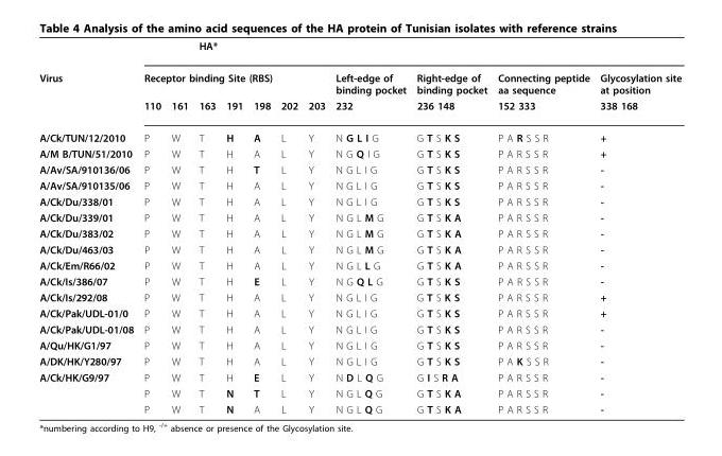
<table><thead><tr><td rowspan="3">Virus</td><td></td><td></td><td colspan="6">HA*</td><td rowspan="3">Right-edge of binding pocket 236 148</td><td rowspan="3">Connecting peptide aa sequence 152 333</td><td rowspan="3">Glycosylation site at position 338 168</td></tr><tr><td colspan="7">Receptor binding Site (RBS)</td><td rowspan="2">Left-edge of binding pocket 232</td></tr><tr><td>110</td><td>161</td><td>163</td><td>191</td><td>198</td><td>202</td><td>203</td></tr></thead><tbody><tr><td>A/Ck/TUN/12/2010</td><td>P</td><td>W</td><td>T</td><td>H</td><td>A</td><td>L</td><td>Y</td><td>N G L I G</td><td>G T S K S</td><td>P A R S S R</td><td>+</td></tr><tr><td>A/M B/TUN/51/2010</td><td>P</td><td>W</td><td>T</td><td>H</td><td>A</td><td>L</td><td>Y</td><td>N G Q I G</td><td>G T S K S</td><td>P A R S S R</td><td>+</td></tr><tr><td>A/Av/SA/910136/06</td><td>P</td><td>W</td><td>T</td><td>H</td><td>T</td><td>L</td><td>Y</td><td>N G L I G</td><td>G T S K S</td><td>P A R S S R</td><td>-</td></tr><tr><td>A/Av/SA/910135/06</td><td>P</td><td>W</td><td>T</td><td>H</td><td>A</td><td>L</td><td>Y</td><td>N G L I G</td><td>G T S K S</td><td>P A R S S R</td><td>-</td></tr><tr><td>A/Ck/Du/338/01</td><td>P</td><td>W</td><td>T</td><td>H</td><td>A</td><td>L</td><td>Y</td><td>N G L I G</td><td>G T S K S</td><td>P A R S S R</td><td>-</td></tr><tr><td>A/Ck/Du/339/01</td><td>P</td><td>W</td><td>T</td><td>H</td><td>A</td><td>L</td><td>Y</td><td>N G L M G</td><td>G T S K A</td><td>P A R S S R</td><td>-</td></tr><tr><td>A/Ck/Du/383/02</td><td>P</td><td>W</td><td>T</td><td>H</td><td>A</td><td>L</td><td>Y</td><td>N G L M G</td><td>G T S K A</td><td>P A R S S R</td><td>-</td></tr><tr><td>A/Ck/Du/463/03</td><td>P</td><td>W</td><td>T</td><td>H</td><td>A</td><td>L</td><td>Y</td><td>N G L M G</td><td>G T S K A</td><td>P A R S S R</td><td>-</td></tr><tr><td>A/Ck/Em/R66/02</td><td>P</td><td>W</td><td>T</td><td>H</td><td>A</td><td>L</td><td>Y</td><td>N G L L G</td><td>G T S K A</td><td>P A R S S R</td><td>-</td></tr><tr><td>A/Ck/Is/386/07</td><td>P</td><td>W</td><td>T</td><td>H</td><td>E</td><td>L</td><td>Y</td><td>N G Q L G</td><td>G T S K S</td><td>P A R S S R</td><td>-</td></tr><tr><td>A/Ck/Is/292/08</td><td>P</td><td>W</td><td>T</td><td>H</td><td>A</td><td>L</td><td>Y</td><td>N G L I G</td><td>G T S K S</td><td>P A R S S R</td><td>+</td></tr><tr><td>A/Ck/Pak/UDL-01/0</td><td>P</td><td>W</td><td>T</td><td>H</td><td>A</td><td>L</td><td>Y</td><td>N G L I G</td><td>G T S K S</td><td>P A R S S R</td><td>+</td></tr><tr><td>A/Ck/Pak/UDL-01/08</td><td>P</td><td>W</td><td>T</td><td>H</td><td>A</td><td>L</td><td>Y</td><td>N G L I G</td><td>G T S K S</td><td>P A R S S R</td><td>-</td></tr><tr><td>A/Qu/HK/G1/97</td><td>P</td><td>W</td><td>T</td><td>H</td><td>A</td><td>L</td><td>Y</td><td>N G L I G</td><td>G T S K S</td><td>P A R S S R</td><td>-</td></tr><tr><td>A/DK/HK/Y280/97</td><td>P</td><td>W</td><td>T</td><td>H</td><td>A</td><td>L</td><td>Y</td><td>N G L I G</td><td>G T S K S</td><td>P A K S S R</td><td>-</td></tr><tr><td rowspan="3">A/Ck/HK/G9/97</td><td>P</td><td>W</td><td>T</td><td>H</td><td>E</td><td>L</td><td>Y</td><td>N D L Q G</td><td>G I S R A</td><td>P A R S S R</td><td>-</td></tr><tr><td>P</td><td>W</td><td>T</td><td>N</td><td>T</td><td>L</td><td>Y</td><td>N G L Q G</td><td>G T S K A</td><td>P A R S S R</td><td>-</td></tr><tr><td>P</td><td>W</td><td>T</td><td>N</td><td>A</td><td>L</td><td>Y</td><td>N G L Q G</td><td>G T S K A</td><td>P A R S S R</td><td>-</td></tr></tbody></table>